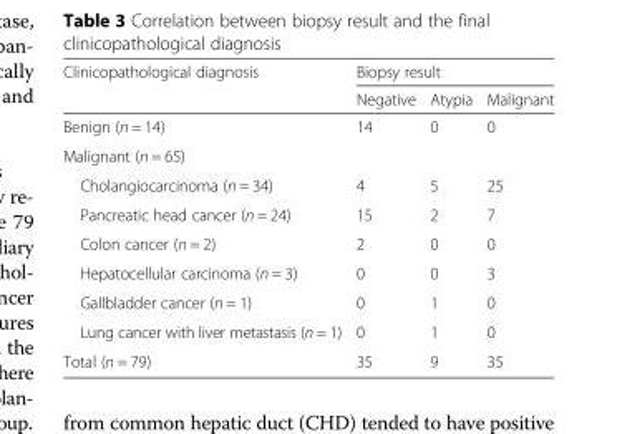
<table><thead><tr><td rowspan="2">Clinicopathological diagnosis</td><td colspan="3">Biopsy result</td></tr><tr><td>Negative</td><td>Atypia</td><td>Malignant</td></tr></thead><tbody><tr><td>Benign (n = 14)</td><td>14</td><td>0</td><td>0</td></tr><tr><td colspan="4">Malignant (n = 65)</td></tr><tr><td>Cholangiocarcinoma (n = 34)</td><td>4</td><td>5</td><td>25</td></tr><tr><td>Pancreatic head cancer (n = 24)</td><td>15</td><td>2</td><td>7</td></tr><tr><td>Colon cancer (n = 2)</td><td>2</td><td>0</td><td>0</td></tr><tr><td>Hepatocellular carcinoma (n = 3)</td><td>0</td><td>0</td><td>3</td></tr><tr><td>Gallbladder cancer (n = 1)</td><td>0</td><td>1</td><td>0</td></tr><tr><td>Lung cancer with liver metastasis (n = 1)</td><td>0</td><td>1</td><td>0</td></tr><tr><td>Total (n = 79)</td><td>35</td><td>9</td><td>35</td></tr></tbody></table>